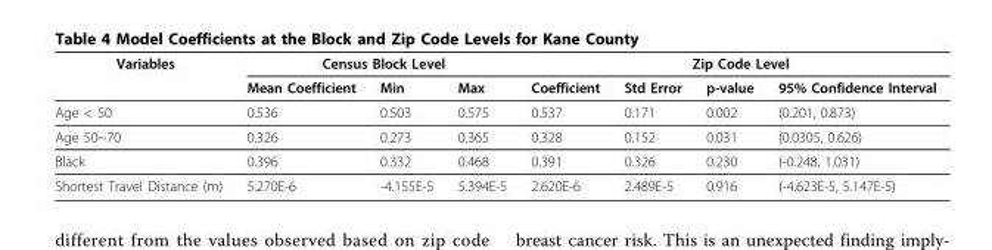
<table><thead><tr><td rowspan="2">Variables</td><td colspan="3">Census Block Level</td><td colspan="4">Zip Code Level</td></tr><tr><td>Mean Coefficient</td><td>Min</td><td>Max</td><td>Coefficient</td><td>Std Error</td><td>p-value</td><td>95% Confidence Interval</td></tr></thead><tbody><tr><td>Age &lt; 50</td><td>0.536</td><td>0.503</td><td>0.575</td><td>0.537</td><td>0.171</td><td>0.002</td><td>(0.201, 0.873)</td></tr><tr><td>Age 50~70</td><td>0.326</td><td>0.273</td><td>0.365</td><td>0.328</td><td>0.152</td><td>0.031</td><td>(0.0305, 0.626)</td></tr><tr><td>Black</td><td>0.396</td><td>0.332</td><td>0.468</td><td>0.391</td><td>0.326</td><td>0.230</td><td>(-0.248, 1.031)</td></tr><tr><td>Shortest Travel Distance (m)</td><td>5.270E-6</td><td>-4.155E-5</td><td>5.394E-5</td><td>2.620E-6</td><td>2.489E-5</td><td>0.916</td><td>(-4.623E-5, 5.147E-5)</td></tr></tbody></table>